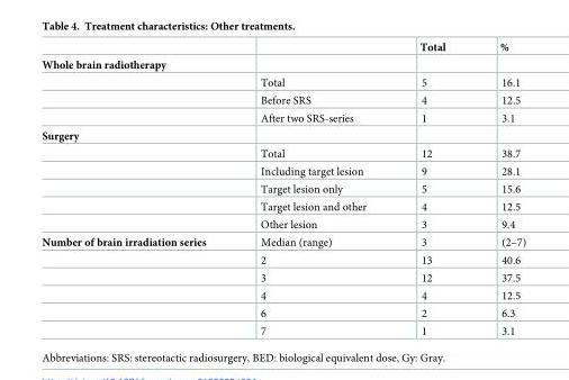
<table><thead><tr><td></td><td></td><td>Total</td><td>%</td></tr></thead><tbody><tr><td colspan="4">Whole brain radiotherapy</td></tr><tr><td></td><td>Total</td><td>5</td><td>16.1</td></tr><tr><td></td><td>Before SRS</td><td>4</td><td>12.5</td></tr><tr><td></td><td>After two SRS-series</td><td>1</td><td>3.1</td></tr><tr><td colspan="4">Surgery</td></tr><tr><td></td><td>Total</td><td>12</td><td>38.7</td></tr><tr><td></td><td>Including target lesion</td><td>9</td><td>28.1</td></tr><tr><td></td><td>Target lesion only</td><td>5</td><td>15.6</td></tr><tr><td></td><td>Target lesion and other</td><td>4</td><td>12.5</td></tr><tr><td></td><td>Other lesion</td><td>3</td><td>9.4</td></tr><tr><td rowspan="6">Number of brain irradiation series</td><td>Median (range)</td><td>3</td><td>(2–7)</td></tr><tr><td>2</td><td>13</td><td>40.6</td></tr><tr><td>3</td><td>12</td><td>37.5</td></tr><tr><td>4</td><td>4</td><td>12.5</td></tr><tr><td>6</td><td>2</td><td>6.3</td></tr><tr><td>7</td><td>1</td><td>3.1</td></tr></tbody></table>